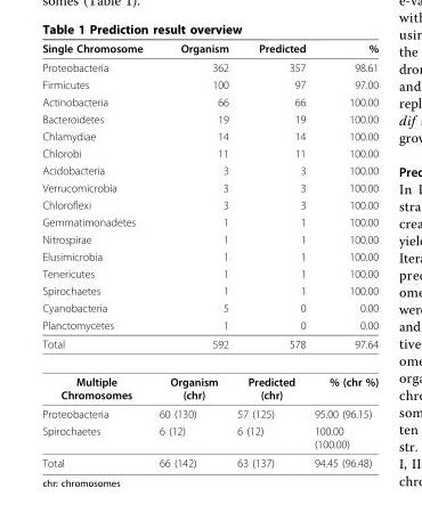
<table><thead><tr><td>Single Chromosome</td><td>Organism</td><td>Predicted</td><td>%</td></tr></thead><tbody><tr><td>Proteobacteria</td><td>362</td><td>357</td><td>98.61</td></tr><tr><td>Firmicutes</td><td>100</td><td>97</td><td>97.00</td></tr><tr><td>Actinobacteria</td><td>66</td><td>66</td><td>100.00</td></tr><tr><td>Bacteroidetes</td><td>19</td><td>19</td><td>100.00</td></tr><tr><td>Chlamydiae</td><td>14</td><td>14</td><td>100.00</td></tr><tr><td>Chlorobi</td><td>11</td><td>11</td><td>100.00</td></tr><tr><td>Acidobacteria</td><td>3</td><td>3</td><td>100.00</td></tr><tr><td>Verrucomicrobia</td><td>3</td><td>3</td><td>100.00</td></tr><tr><td>Chloroflexi</td><td>3</td><td>3</td><td>100.00</td></tr><tr><td>Gemmatimonadetes</td><td>1</td><td>1</td><td>100.00</td></tr><tr><td>Nitrospirae</td><td>1</td><td>1</td><td>100.00</td></tr><tr><td>Elusimicrobia</td><td>1</td><td>1</td><td>100.00</td></tr><tr><td>Tenericutes</td><td>1</td><td>1</td><td>100.00</td></tr><tr><td>Spirochaetes</td><td>1</td><td>1</td><td>100.00</td></tr><tr><td>Cyanobacteria</td><td>5</td><td>0</td><td>0.00</td></tr><tr><td>Planctomycetes</td><td>1</td><td>0</td><td>0.00</td></tr><tr><td>Total</td><td>592</td><td>578</td><td>97.64</td></tr><tr><td>Multiple Chromosomes</td><td>Organism (chr)</td><td>Predicted (chr)</td><td>% (chr %)</td></tr><tr><td>Proteobacteria</td><td>60 (130)</td><td>57 (125)</td><td>95.00 (96.15)</td></tr><tr><td>Spirochaetes</td><td>6 (12)</td><td>6 (12)</td><td>100.00 (100.00)</td></tr><tr><td>Total</td><td>66 (142)</td><td>63 (137)</td><td>94.45 (96.48)</td></tr></tbody></table>